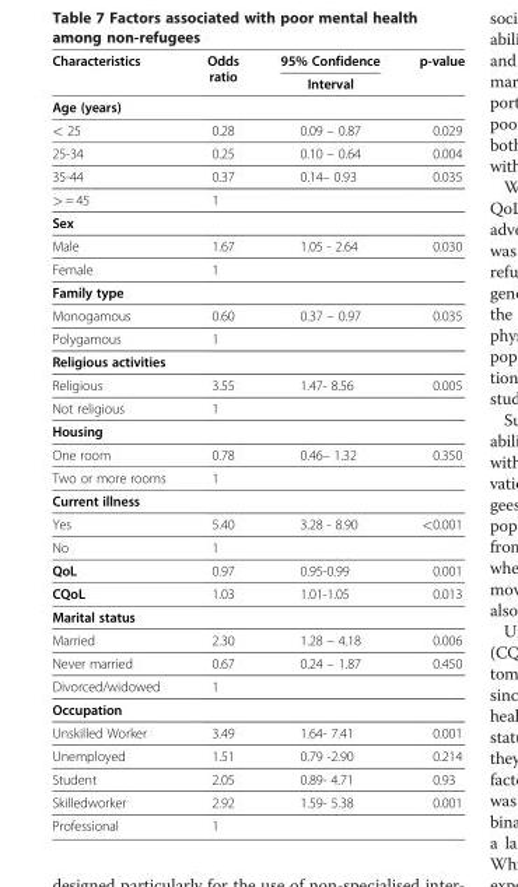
<table><thead><tr><td rowspan="2">Characteristics</td><td rowspan="2">Odds ratio</td><td rowspan="2">95% Confidence Interval</td><td rowspan="2">p-value</td></tr><tr></tr></thead><tbody><tr><td colspan="4">Age (years)</td></tr><tr><td>&lt; 25</td><td>0.28</td><td>0.09 – 0.87</td><td>0.029</td></tr><tr><td>25-34</td><td>0.25</td><td>0.10 – 0.64</td><td>0.004</td></tr><tr><td>35-44</td><td>0.37</td><td>0.14– 0.93</td><td>0.035</td></tr><tr><td>&gt; = 45</td><td>1</td><td></td><td></td></tr><tr><td colspan="4">Sex</td></tr><tr><td>Male</td><td>1.67</td><td>1.05 - 2.64</td><td>0.030</td></tr><tr><td>Female</td><td>1</td><td></td><td></td></tr><tr><td colspan="4">Family type</td></tr><tr><td>Monogamous</td><td>0.60</td><td>0.37 – 0.97</td><td>0.035</td></tr><tr><td>Polygamous</td><td>1</td><td></td><td></td></tr><tr><td colspan="4">Religious activities</td></tr><tr><td>Religious</td><td>3.55</td><td>1.47- 8.56</td><td>0.005</td></tr><tr><td>Not religious</td><td>1</td><td></td><td></td></tr><tr><td colspan="4">Housing</td></tr><tr><td>One room</td><td>0.78</td><td>0.46– 1.32</td><td>0.350</td></tr><tr><td>Two or more rooms</td><td>1</td><td></td><td></td></tr><tr><td colspan="4">Current illness</td></tr><tr><td>Yes</td><td>5.40</td><td>3.28 - 8.90</td><td>&lt;0.001</td></tr><tr><td>No</td><td>1</td><td></td><td></td></tr><tr><td>QoL</td><td>0.97</td><td>0.95-0.99</td><td>0.001</td></tr><tr><td>CQoL</td><td>1.03</td><td>1.01-1.05</td><td>0.013</td></tr><tr><td colspan="4">Marital status</td></tr><tr><td>Married</td><td>2.30</td><td>1.28 – 4.18</td><td>0.006</td></tr><tr><td>Never married</td><td>0.67</td><td>0.24 – 1.87</td><td>0.450</td></tr><tr><td>Divorced/widowed</td><td>1</td><td></td><td></td></tr><tr><td colspan="4">Occupation</td></tr><tr><td>Unskilled Worker</td><td>3.49</td><td>1.64- 7.41</td><td>0.001</td></tr><tr><td>Unemployed</td><td>1.51</td><td>0.79 -2.90</td><td>0.214</td></tr><tr><td>Student</td><td>2.05</td><td>0.89- 4.71</td><td>0.93</td></tr><tr><td>Skilledworker</td><td>2.92</td><td>1.59- 5.38</td><td>0.001</td></tr><tr><td>Professional</td><td>1</td><td></td><td></td></tr></tbody></table>